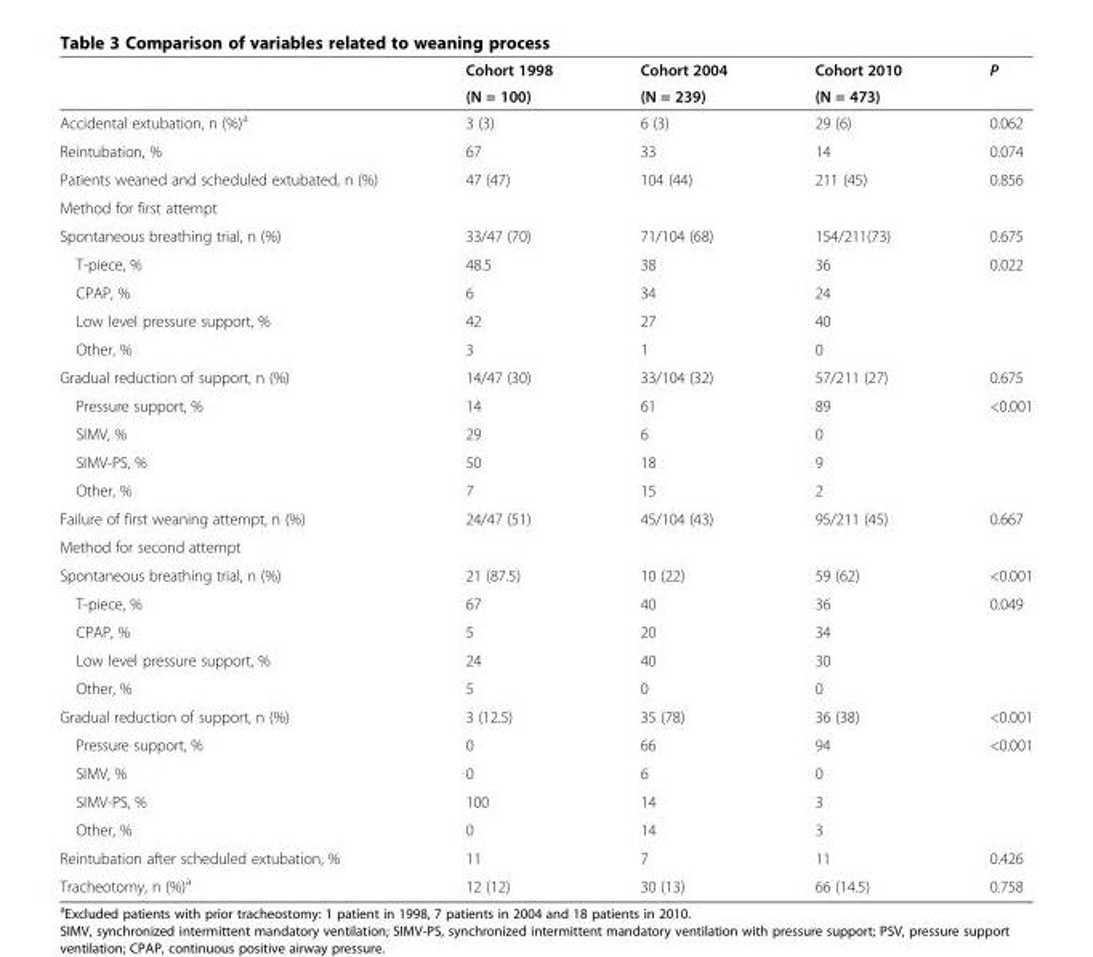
<table><thead><tr><td rowspan="2"></td><td rowspan="2">Cohort 1998 (N = 100)</td><td rowspan="2">Cohort 2004 (N = 239)</td><td rowspan="2">Cohort 2010 (N = 473)</td><td rowspan="2">P</td></tr><tr></tr></thead><tbody><tr><td>Accidental extubation, n (%)<sup>a</sup></td><td>3 (3)</td><td>6 (3)</td><td>29 (6)</td><td>0.062</td></tr><tr><td>Reintubation, %</td><td>67</td><td>33</td><td>14</td><td>0.074</td></tr><tr><td>Patients weaned and scheduled extubated, n (%)</td><td>47 (47)</td><td>104 (44)</td><td>211 (45)</td><td>0.856</td></tr><tr><td colspan="5">Method for first attempt</td></tr><tr><td>Spontaneous breathing trial, n (%)</td><td>33/47 (70)</td><td>71/104 (68)</td><td>154/211(73)</td><td>0.675</td></tr><tr><td>T-piece, %</td><td>48.5</td><td>38</td><td>36</td><td rowspan="4">0.022</td></tr><tr><td>CPAP, %</td><td>6</td><td>34</td><td>24</td></tr><tr><td>Low level pressure support, %</td><td>42</td><td>27</td><td>40</td></tr><tr><td>Other, %</td><td>3</td><td>1</td><td>0</td></tr><tr><td>Gradual reduction of support, n (%)</td><td>14/47 (30)</td><td>33/104 (32)</td><td>57/211 (27)</td><td>0.675</td></tr><tr><td>Pressure support, %</td><td>14</td><td>61</td><td>89</td><td rowspan="4">&lt;0.001</td></tr><tr><td>SIMV, %</td><td>29</td><td>6</td><td>0</td></tr><tr><td>SIMV-PS, %</td><td>50</td><td>18</td><td>9</td></tr><tr><td>Other, %</td><td>7</td><td>15</td><td>2</td></tr><tr><td>Failure of first weaning attempt, n (%)</td><td>24/47 (51)</td><td>45/104 (43)</td><td>95/211 (45)</td><td>0.667</td></tr><tr><td colspan="5">Method for second attempt</td></tr><tr><td>Spontaneous breathing trial, n (%)</td><td>21 (87.5)</td><td>10 (22)</td><td>59 (62)</td><td>&lt;0.001</td></tr><tr><td>T-piece, %</td><td>67</td><td>40</td><td>36</td><td rowspan="4">0.049</td></tr><tr><td>CPAP, %</td><td>5</td><td>20</td><td>34</td></tr><tr><td>Low level pressure support, %</td><td>24</td><td>40</td><td>30</td></tr><tr><td>Other, %</td><td>5</td><td>0</td><td>0</td></tr><tr><td>Gradual reduction of support, n (%)</td><td>3 (12.5)</td><td>35 (78)</td><td>36 (38)</td><td>&lt;0.001</td></tr><tr><td>Pressure support, %</td><td>0</td><td>66</td><td>94</td><td rowspan="4">&lt;0.001</td></tr><tr><td>SIMV, %</td><td>0</td><td>6</td><td>0</td></tr><tr><td>SIMV-PS, %</td><td>100</td><td>14</td><td>3</td></tr><tr><td>Other, %</td><td>0</td><td>14</td><td>3</td></tr><tr><td>Reintubation after scheduled extubation, %</td><td>11</td><td>7</td><td>11</td><td>0.426</td></tr><tr><td>Tracheotomy, n (%)<sup>a</sup></td><td>12 (12)</td><td>30 (13)</td><td>66 (14.5)</td><td>0.758</td></tr></tbody></table>